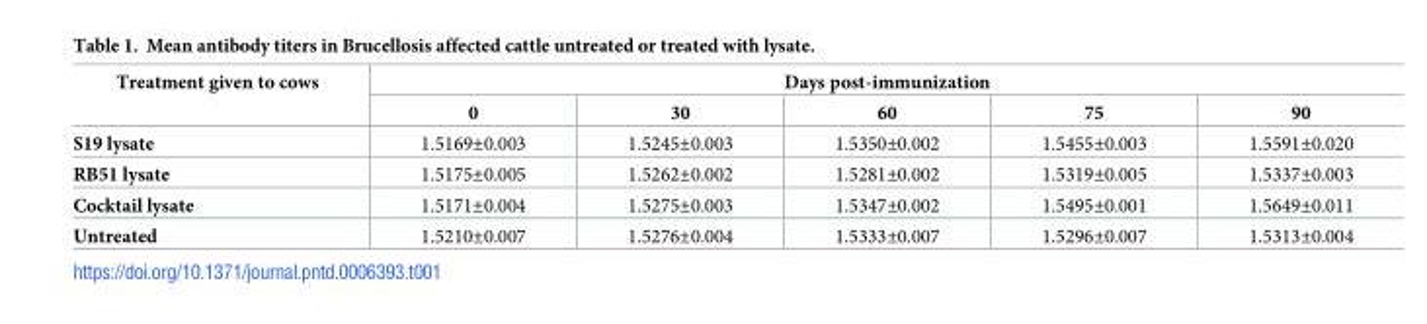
<table><thead><tr><td rowspan="2">Treatment given to cows</td><td colspan="5">Days post-immunization</td></tr><tr><td>0</td><td>30</td><td>60</td><td>75</td><td>90</td></tr></thead><tbody><tr><td>S19 lysate</td><td>1.5169±0.003</td><td>1.5245±0.003</td><td>1.5350±0.002</td><td>1.5455±0.003</td><td>1.5591±0.020</td></tr><tr><td>RB51 lysate</td><td>1.5175±0.005</td><td>1.5262±0.002</td><td>1.5281±0.002</td><td>1.5319±0.005</td><td>1.5337±0.003</td></tr><tr><td>Cocktail lysate</td><td>1.5171±0.004</td><td>1.5275±0.003</td><td>1.5347±0.002</td><td>1.5495±0.001</td><td>1.5649±0.011</td></tr><tr><td>Untreated</td><td>1.5210±0.007</td><td>1.5276±0.004</td><td>1.5333±0.007</td><td>1.5296±0.007</td><td>1.5313±0.004</td></tr></tbody></table>